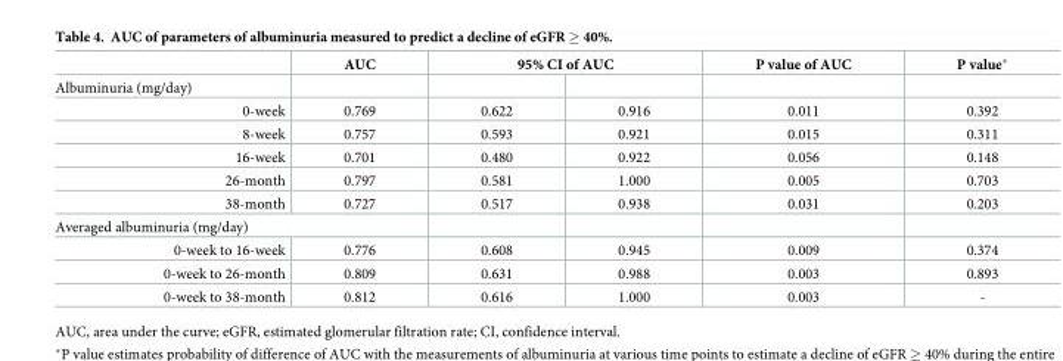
<table><thead><tr><td rowspan="2">Albuminuria (mg/day)</td><td rowspan="2">AUC</td><td colspan="2">95% CI of AUC</td><td rowspan="2">P value of AUC</td><td rowspan="2">P value*</td></tr><tr><td></td><td></td></tr></thead><tbody><tr><td>0-week</td><td>0.769</td><td>0.622</td><td>0.916</td><td>0.011</td><td>0.392</td></tr><tr><td>8-week</td><td>0.757</td><td>0.593</td><td>0.921</td><td>0.015</td><td>0.311</td></tr><tr><td>16-week</td><td>0.701</td><td>0.480</td><td>0.922</td><td>0.056</td><td>0.148</td></tr><tr><td>26-month</td><td>0.797</td><td>0.581</td><td>1.000</td><td>0.005</td><td>0.703</td></tr><tr><td>38-month</td><td>0.727</td><td>0.517</td><td>0.938</td><td>0.031</td><td>0.203</td></tr><tr><td colspan="6">Averaged albuminuria (mg/day)</td></tr><tr><td>0-week to 16-week</td><td>0.776</td><td>0.608</td><td>0.945</td><td>0.009</td><td>0.374</td></tr><tr><td>0-week to 26-month</td><td>0.809</td><td>0.631</td><td>0.988</td><td>0.003</td><td>0.893</td></tr><tr><td>0-week to 38-month</td><td>0.812</td><td>0.616</td><td>1.000</td><td>0.003</td><td>-</td></tr></tbody></table>